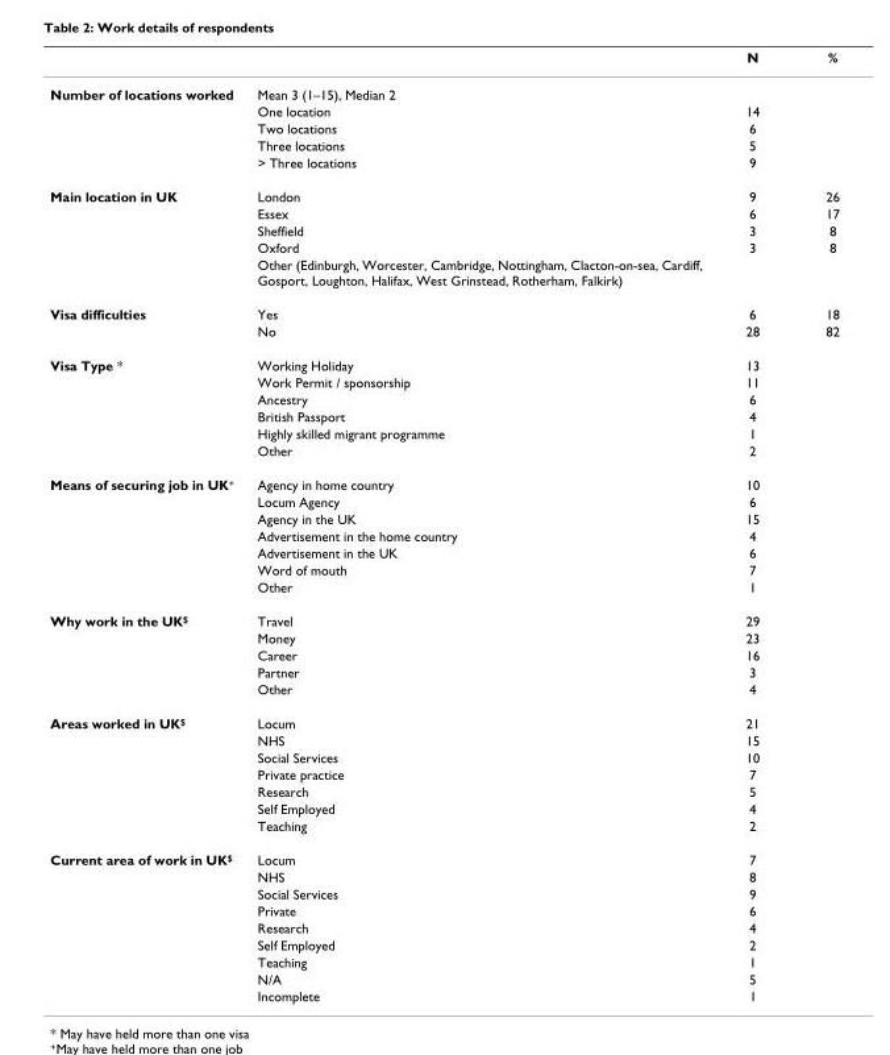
<table><thead><tr><td></td><td></td><td>N</td><td>%</td></tr></thead><tbody><tr><td rowspan="5">Number of locations worked</td><td>Mean 3 (1–15), Median 2</td><td></td><td></td></tr><tr><td>One location</td><td>14</td><td></td></tr><tr><td>Two locations</td><td>6</td><td></td></tr><tr><td>Three locations</td><td>5</td><td></td></tr><tr><td>&gt; Three locations</td><td>9</td><td></td></tr><tr><td rowspan="5">Main location in UK</td><td>London</td><td>9</td><td>26</td></tr><tr><td>Essex</td><td>6</td><td>17</td></tr><tr><td>Sheffield</td><td>3</td><td>8</td></tr><tr><td>Oxford</td><td>3</td><td>8</td></tr><tr><td>Other (Edinburgh, Worcester, Cambridge, Nottingham, Clacton-on-sea, Cardiff, Gosport, Loughton, Halifax, West Grinstead, Rotherham, Falkirk)</td><td></td><td></td></tr><tr><td rowspan="2">Visa difficulties</td><td>Yes</td><td>6</td><td>18</td></tr><tr><td>No</td><td>28</td><td>82</td></tr><tr><td rowspan="6">Visa Type *</td><td>Working Holiday</td><td>13</td><td></td></tr><tr><td>Work Permit / sponsorship</td><td>11</td><td></td></tr><tr><td>Ancestry</td><td>6</td><td></td></tr><tr><td>British Passport</td><td>4</td><td></td></tr><tr><td>Highly skilled migrant programme</td><td>1</td><td></td></tr><tr><td>Other</td><td>2</td><td></td></tr><tr><td rowspan="7">Means of securing job in UK<sup>+</sup></td><td>Agency in home country</td><td>10</td><td></td></tr><tr><td>Locum Agency</td><td>6</td><td></td></tr><tr><td>Agency in the UK</td><td>15</td><td></td></tr><tr><td>Advertisement in the home country</td><td>4</td><td></td></tr><tr><td>Advertisement in the UK</td><td>6</td><td></td></tr><tr><td>Word of mouth</td><td>7</td><td></td></tr><tr><td>Other</td><td>1</td><td></td></tr><tr><td rowspan="5">Why work in the UK<sup>$</sup></td><td>Travel</td><td>29</td><td></td></tr><tr><td>Money</td><td>23</td><td></td></tr><tr><td>Career</td><td>16</td><td></td></tr><tr><td>Partner</td><td>3</td><td></td></tr><tr><td>Other</td><td>4</td><td></td></tr><tr><td rowspan="7">Areas worked in UK<sup>$</sup></td><td>Locum</td><td>21</td><td></td></tr><tr><td>NHS</td><td>15</td><td></td></tr><tr><td>Social Services</td><td>10</td><td></td></tr><tr><td>Private practice</td><td>7</td><td></td></tr><tr><td>Research</td><td>5</td><td></td></tr><tr><td>Self Employed</td><td>4</td><td></td></tr><tr><td>Teaching</td><td>2</td><td></td></tr><tr><td rowspan="9">Current area of work in UK<sup>$</sup></td><td>Locum</td><td>7</td><td></td></tr><tr><td>NHS</td><td>8</td><td></td></tr><tr><td>Social Services</td><td>9</td><td></td></tr><tr><td>Private</td><td>6</td><td></td></tr><tr><td>Research</td><td>4</td><td></td></tr><tr><td>Self Employed</td><td>2</td><td></td></tr><tr><td>Teaching</td><td>1</td><td></td></tr><tr><td>N/A</td><td>5</td><td></td></tr><tr><td>Incomplete</td><td>1</td><td></td></tr></tbody></table>